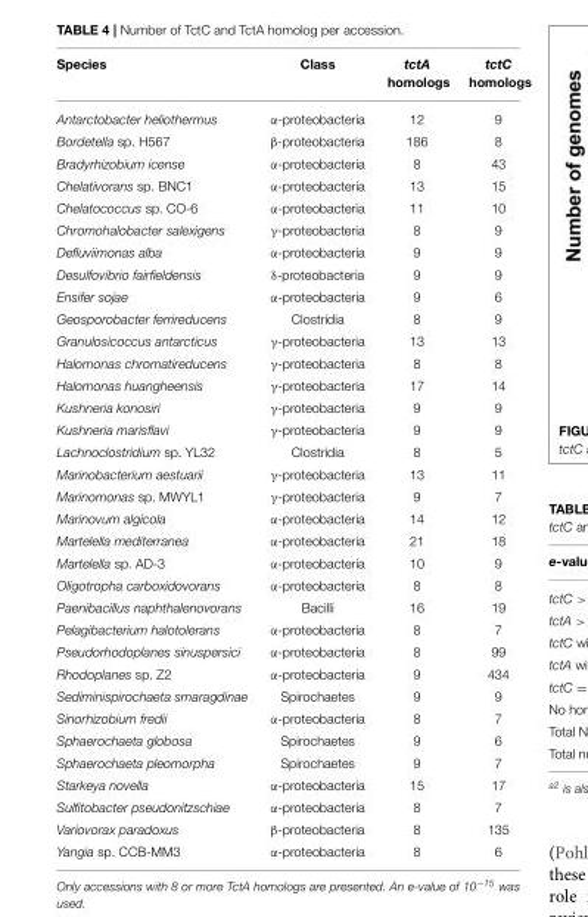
<table><thead><tr><td>Species</td><td>Class</td><td>tctA homologs</td><td>tctC homologs</td></tr></thead><tbody><tr><td>Antarctobacter heliothermus</td><td>α-proteobacteria</td><td>12</td><td>9</td></tr><tr><td>Bordetella sp. H567</td><td>β-proteobacteria</td><td>186</td><td>8</td></tr><tr><td>Bradyrhizobium icense</td><td>α-proteobacteria</td><td>8</td><td>43</td></tr><tr><td>Chelativorans sp. BNC1</td><td>α-proteobacteria</td><td>13</td><td>15</td></tr><tr><td>Chelatococcus sp. CO-6</td><td>α-proteobacteria</td><td>11</td><td>10</td></tr><tr><td>Chromohalobacter salexigens</td><td>γ-proteobacteria</td><td>8</td><td>9</td></tr><tr><td>Defluviimonas alba</td><td>α-proteobacteria</td><td>9</td><td>9</td></tr><tr><td>Desulfovibrio fairfieldensis</td><td>δ-proteobacteria</td><td>9</td><td>9</td></tr><tr><td>Ensifer sojae</td><td>α-proteobacteria</td><td>9</td><td>6</td></tr><tr><td>Geosporobacter ferrireducens</td><td>Clostridia</td><td>8</td><td>9</td></tr><tr><td>Granulosicoccus antarcticus</td><td>γ-proteobacteria</td><td>13</td><td>13</td></tr><tr><td>Halomonas chromatireducens</td><td>γ-proteobacteria</td><td>8</td><td>8</td></tr><tr><td>Halomonas huangheensis</td><td>γ-proteobacteria</td><td>17</td><td>14</td></tr><tr><td>Kushneria konosiri</td><td>γ-proteobacteria</td><td>9</td><td>9</td></tr><tr><td>Kushneria marisflavi</td><td>γ-proteobacteria</td><td>9</td><td>9</td></tr><tr><td>Lachnoclostridium sp. YL32</td><td>Clostridia</td><td>8</td><td>5</td></tr><tr><td>Marinobacterium aestuarii</td><td>γ-proteobacteria</td><td>13</td><td>11</td></tr><tr><td>Marinomonas sp. MWYL1</td><td>γ-proteobacteria</td><td>9</td><td>7</td></tr><tr><td>Marinovum algicola</td><td>α-proteobacteria</td><td>14</td><td>12</td></tr><tr><td>Martelella mediterranea</td><td>α-proteobacteria</td><td>21</td><td>18</td></tr><tr><td>Martelella sp. AD-3</td><td>α-proteobacteria</td><td>10</td><td>9</td></tr><tr><td>Oligotropha carboxidovorans</td><td>α-proteobacteria</td><td>8</td><td>8</td></tr><tr><td>Paenibacillus naphthalenovorans</td><td>Bacilli</td><td>16</td><td>19</td></tr><tr><td>Pelagibacterium halotolerans</td><td>α-proteobacteria</td><td>8</td><td>7</td></tr><tr><td>Pseudorhodoplanes sinuspersici</td><td>α-proteobacteria</td><td>8</td><td>99</td></tr><tr><td>Rhodoplanes sp. Z2</td><td>α-proteobacteria</td><td>9</td><td>434</td></tr><tr><td>Sediminispirochaeta smaragdinae</td><td>Spirochaetes</td><td>9</td><td>9</td></tr><tr><td>Sinorhizobium fredii</td><td>α-proteobacteria</td><td>8</td><td>7</td></tr><tr><td>Sphaerochaeta globosa</td><td>Spirochaetes</td><td>9</td><td>6</td></tr><tr><td>Sphaerochaeta pleomorpha</td><td>Spirochaetes</td><td>9</td><td>7</td></tr><tr><td>Starkeya novella</td><td>α-proteobacteria</td><td>15</td><td>17</td></tr><tr><td>Sulfitobacter pseudonitzschiae</td><td>α-proteobacteria</td><td>8</td><td>7</td></tr><tr><td>Variovorax paradoxus</td><td>β-proteobacteria</td><td>8</td><td>135</td></tr><tr><td>Yangia sp. CCB-MM3</td><td>α-proteobacteria</td><td>8</td><td>6</td></tr></tbody></table>